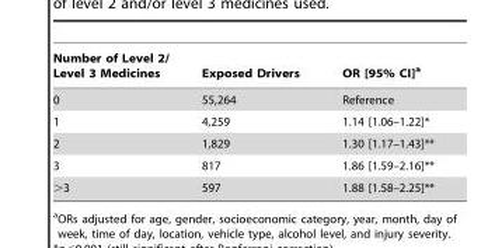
<table><thead><tr><td>Number of Level 2/ Level 3 Medicines</td><td>Exposed Drivers</td><td>OR [95% CI]<sup>a</sup></td></tr></thead><tbody><tr><td>0</td><td>55,264</td><td>Reference</td></tr><tr><td>1</td><td>4,259</td><td>1.14 [1.06–1.22]*</td></tr><tr><td>2</td><td>1,829</td><td>1.30 [1.17–1.43]**</td></tr><tr><td>3</td><td>817</td><td>1.86 [1.59–2.16]**</td></tr><tr><td>&gt;3</td><td>597</td><td>1.88 [1.58–2.25]**</td></tr></tbody></table>